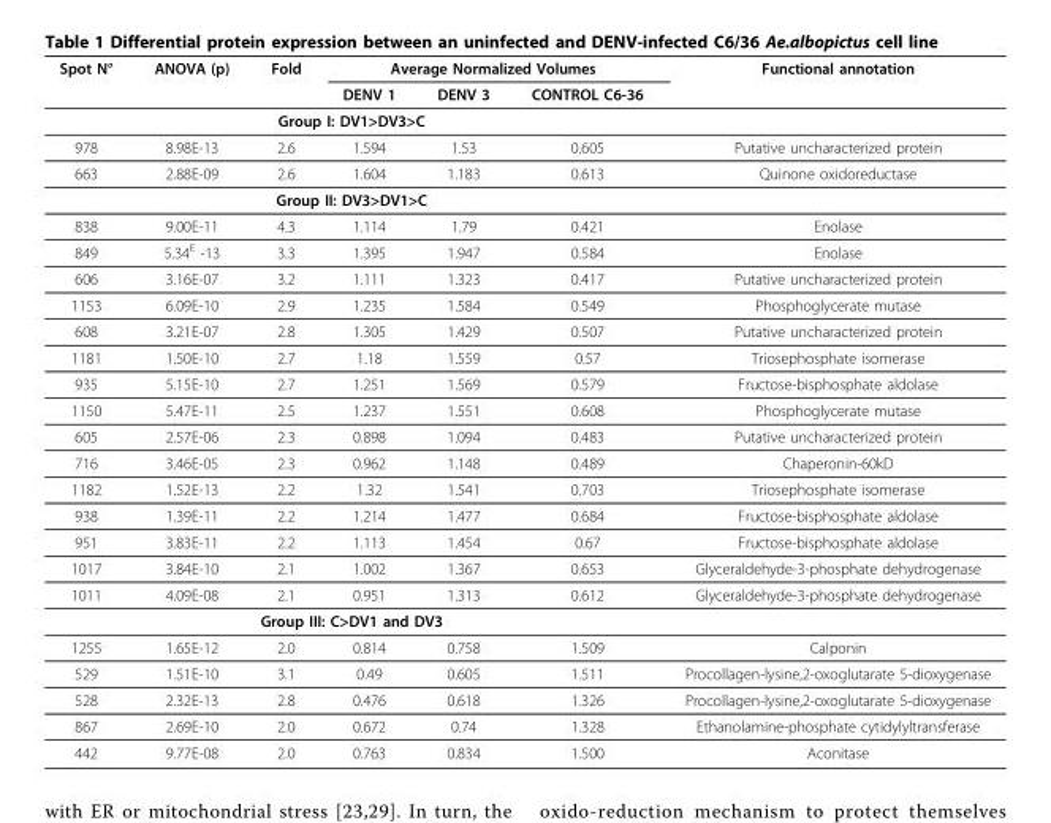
<table><thead><tr><td rowspan="2">Spot N°</td><td rowspan="2">ANOVA (p)</td><td rowspan="2">Fold</td><td colspan="3">Average Normalized Volumes</td><td rowspan="2">Functional annotation</td></tr><tr><td>DENV 1</td><td>DENV 3</td><td>CONTROL C6-36</td></tr></thead><tbody><tr><td colspan="7">Group I: DV1&gt;DV3&gt;C</td></tr><tr><td>978</td><td>8.98E-13</td><td>2.6</td><td>1.594</td><td>1.53</td><td>0.605</td><td>Putative uncharacterized protein</td></tr><tr><td>663</td><td>2.88E-09</td><td>2.6</td><td>1.604</td><td>1.183</td><td>0.613</td><td>Quinone oxidoreductase</td></tr><tr><td colspan="7">Group II: DV3&gt;DV1&gt;C</td></tr><tr><td>838</td><td>9.00E-11</td><td>4.3</td><td>1.114</td><td>1.79</td><td>0.421</td><td>Enolase</td></tr><tr><td>849</td><td>5.34<sup>E</sup> -13</td><td>3.3</td><td>1.395</td><td>1.947</td><td>0.584</td><td>Enolase</td></tr><tr><td>606</td><td>3.16E-07</td><td>3.2</td><td>1.111</td><td>1.323</td><td>0.417</td><td>Putative uncharacterized protein</td></tr><tr><td>1153</td><td>6.09E-10</td><td>2.9</td><td>1.235</td><td>1.584</td><td>0.549</td><td>Phosphoglycerate mutase</td></tr><tr><td>608</td><td>3.21E-07</td><td>2.8</td><td>1.305</td><td>1.429</td><td>0.507</td><td>Putative uncharacterized protein</td></tr><tr><td>1181</td><td>1.50E-10</td><td>2.7</td><td>1.18</td><td>1.559</td><td>0.57</td><td>Triosephosphate isomerase</td></tr><tr><td>935</td><td>5.15E-10</td><td>2.7</td><td>1.251</td><td>1.569</td><td>0.579</td><td>Fructose-bisphosphate aldolase</td></tr><tr><td>1150</td><td>5.47E-11</td><td>2.5</td><td>1.237</td><td>1.551</td><td>0.608</td><td>Phosphoglycerate mutase</td></tr><tr><td>605</td><td>2.57E-06</td><td>2.3</td><td>0.898</td><td>1.094</td><td>0.483</td><td>Putative uncharacterized protein</td></tr><tr><td>716</td><td>3.46E-05</td><td>2.3</td><td>0.962</td><td>1.148</td><td>0.489</td><td>Chaperonin-60kD</td></tr><tr><td>1182</td><td>1.52E-13</td><td>2.2</td><td>1.32</td><td>1.541</td><td>0.703</td><td>Triosephosphate isomerase</td></tr><tr><td>938</td><td>1.39E-11</td><td>2.2</td><td>1.214</td><td>1.477</td><td>0.684</td><td>Fructose-bisphosphate aldolase</td></tr><tr><td>951</td><td>3.83E-11</td><td>2.2</td><td>1.113</td><td>1.454</td><td>0.67</td><td>Fructose-bisphosphate aldolase</td></tr><tr><td>1017</td><td>3.84E-10</td><td>2.1</td><td>1.002</td><td>1.367</td><td>0.653</td><td>Glyceraldehyde-3-phosphate dehydrogenase</td></tr><tr><td>1011</td><td>4.09E-08</td><td>2.1</td><td>0.951</td><td>1.313</td><td>0.612</td><td>Glyceraldehyde-3-phosphate dehydrogenase</td></tr><tr><td colspan="7">Group III: C&gt;DV1 and DV3</td></tr><tr><td>1255</td><td>1.65E-12</td><td>2.0</td><td>0.814</td><td>0.758</td><td>1.509</td><td>Calponin</td></tr><tr><td>529</td><td>1.51E-10</td><td>3.1</td><td>0.49</td><td>0.605</td><td>1.511</td><td>Procollagen-lysine,2-oxoglutarate 5-dioxygenase</td></tr><tr><td>528</td><td>2.32E-13</td><td>2.8</td><td>0.476</td><td>0.618</td><td>1.326</td><td>Procollagen-lysine,2-oxoglutarate 5-dioxygenase</td></tr><tr><td>867</td><td>2.69E-10</td><td>2.0</td><td>0.672</td><td>0.74</td><td>1.328</td><td>Ethanolamine-phosphate cytidylyltransferase</td></tr><tr><td>442</td><td>9.77E-08</td><td>2.0</td><td>0.763</td><td>0.834</td><td>1.500</td><td>Aconitase</td></tr></tbody></table>